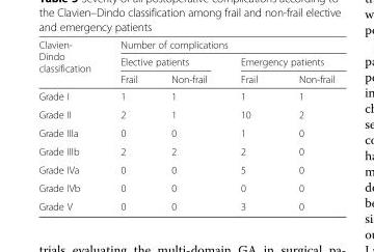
<table><thead><tr><td rowspan="3">Clavien- Dindo classification</td><td colspan="4">Number of complications</td></tr><tr><td colspan="2">Elective patients</td><td colspan="2">Emergency patients</td></tr><tr><td>Frail</td><td>Non-frail</td><td>Frail</td><td>Non-frail</td></tr></thead><tbody><tr><td>Grade I</td><td>1</td><td>1</td><td>1</td><td>1</td></tr><tr><td>Grade II</td><td>2</td><td>1</td><td>10</td><td>2</td></tr><tr><td>Grade IIIa</td><td>0</td><td>0</td><td>1</td><td>0</td></tr><tr><td>Grade IIIb</td><td>2</td><td>2</td><td>2</td><td>0</td></tr><tr><td>Grade IVa</td><td>0</td><td>0</td><td>5</td><td>0</td></tr><tr><td>Grade IVb</td><td>0</td><td>0</td><td>0</td><td>0</td></tr><tr><td>Grade V</td><td>0</td><td>0</td><td>3</td><td>0</td></tr></tbody></table>